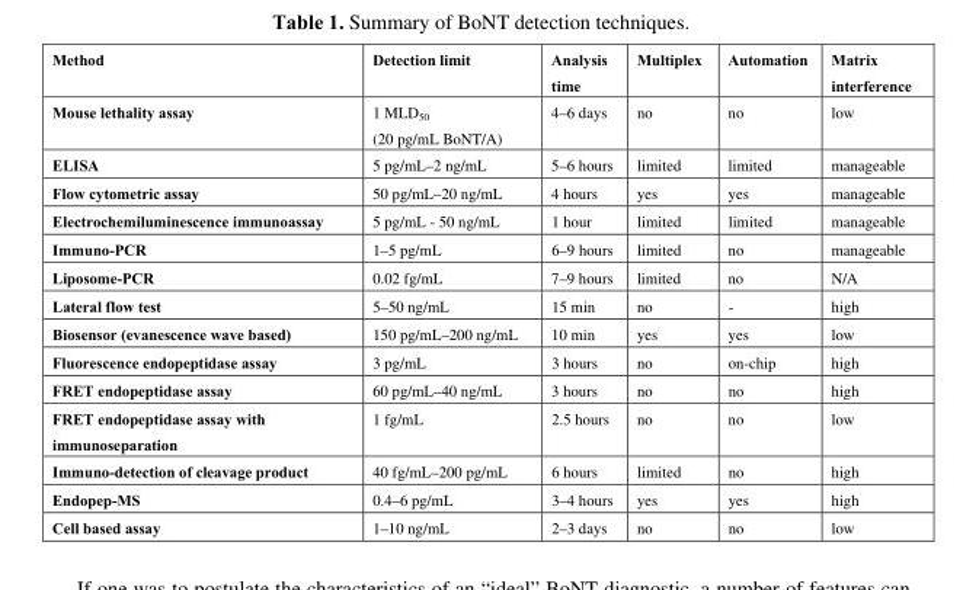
<table><thead><tr><td>Method</td><td>Detection limit</td><td>Analysis time</td><td>Multiplex</td><td>Automation</td><td>Matrix interference</td></tr></thead><tbody><tr><td>Mouse lethality assay</td><td>1 MLD<sub>50</sub> (20 pg/mL BoNT/A)</td><td>4–6 days</td><td>no</td><td>no</td><td>low</td></tr><tr><td>ELISA</td><td>5 pg/mL–2 ng/mL</td><td>5–6 hours</td><td>limited</td><td>limited</td><td>manageable</td></tr><tr><td>Flow cytometric assay</td><td>50 pg/mL–20 ng/mL</td><td>4 hours</td><td>yes</td><td>yes</td><td>manageable</td></tr><tr><td>Electrochemiluminescence immunoassay</td><td>5 pg/mL - 50 ng/mL</td><td>1 hour</td><td>limited</td><td>limited</td><td>manageable</td></tr><tr><td>Immuno-PCR</td><td>1–5 pg/mL</td><td>6–9 hours</td><td>limited</td><td>no</td><td>manageable</td></tr><tr><td>Liposome-PCR</td><td>0.02 fg/mL</td><td>7–9 hours</td><td>limited</td><td>no</td><td>N/A</td></tr><tr><td>Lateral flow test</td><td>5–50 ng/mL</td><td>15 min</td><td>no</td><td>-</td><td>high</td></tr><tr><td>Biosensor (evanescence wave based)</td><td>150 pg/mL–200 ng/mL</td><td>10 min</td><td>yes</td><td>yes</td><td>low</td></tr><tr><td>Fluorescence endopeptidase assay</td><td>3 pg/mL</td><td>3 hours</td><td>no</td><td>on-chip</td><td>high</td></tr><tr><td>FRET endopeptidase assay</td><td>60 pg/mL–40 ng/mL</td><td>3 hours</td><td>no</td><td>no</td><td>high</td></tr><tr><td>FRET endopeptidase assay with immunoseparation</td><td>1 fg/mL</td><td>2.5 hours</td><td>no</td><td>no</td><td>low</td></tr><tr><td>Immuno-detection of cleavage product</td><td>40 fg/mL–200 pg/mL</td><td>6 hours</td><td>limited</td><td>no</td><td>high</td></tr><tr><td>Endopep-MS</td><td>0.4–6 pg/mL</td><td>3–4 hours</td><td>yes</td><td>yes</td><td>high</td></tr><tr><td>Cell based assay</td><td>1–10 ng/mL</td><td>2–3 days</td><td>no</td><td>no</td><td>low</td></tr></tbody></table>